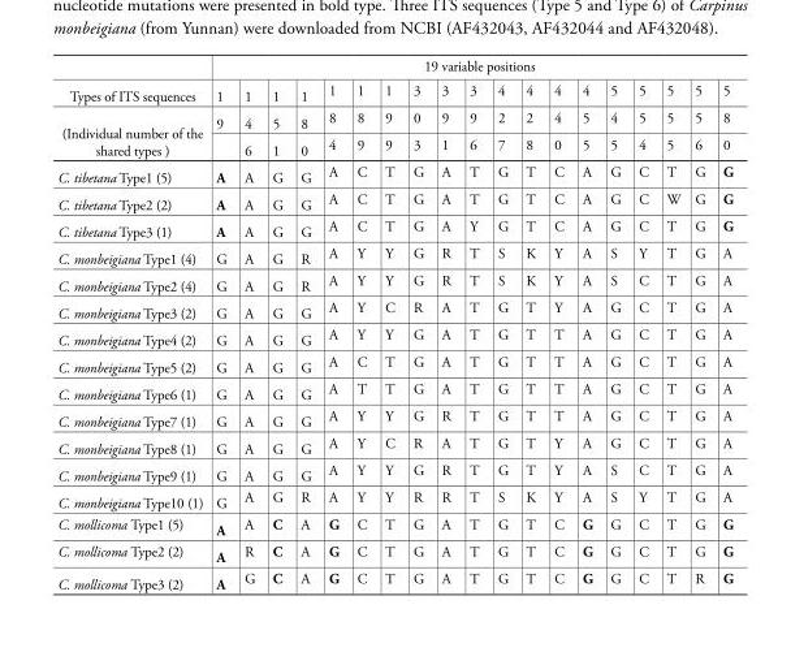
<table><thead><tr><td rowspan="2">Types of ITS sequences</td><td colspan="19">19 variable positions</td></tr><tr><td>1</td><td>1</td><td>1</td><td>1</td><td>1</td><td>1</td><td>1</td><td>3</td><td>3</td><td>3</td><td>4</td><td>4</td><td>4</td><td>4</td><td>5</td><td>5</td><td>5</td><td>5</td><td>5</td></tr></thead><tbody><tr><td rowspan="2">(Individual number of the shared types )</td><td>9</td><td>4</td><td>5</td><td>8</td><td>8</td><td>8</td><td>9</td><td>0</td><td>9</td><td>9</td><td>2</td><td>2</td><td>4</td><td>5</td><td>4</td><td>5</td><td>5</td><td>5</td><td>8</td></tr><tr><td></td><td>6</td><td>1</td><td>0</td><td>4</td><td>9</td><td>9</td><td>3</td><td>1</td><td>6</td><td>7</td><td>8</td><td>0</td><td>5</td><td>5</td><td>4</td><td>5</td><td>6</td><td>0</td></tr><tr><td>C. tibetana Type1 (5)</td><td>A</td><td>A</td><td>G</td><td>G</td><td>A</td><td>C</td><td>T</td><td>G</td><td>A</td><td>T</td><td>G</td><td>T</td><td>C</td><td>A</td><td>G</td><td>C</td><td>T</td><td>G</td><td>G</td></tr><tr><td>C. tibetana Type2 (2)</td><td>A</td><td>A</td><td>G</td><td>G</td><td>A</td><td>C</td><td>T</td><td>G</td><td>A</td><td>T</td><td>G</td><td>T</td><td>C</td><td>A</td><td>G</td><td>C</td><td>W</td><td>G</td><td>G</td></tr><tr><td>C. tibetana Type3 (1)</td><td>A</td><td>A</td><td>G</td><td>G</td><td>A</td><td>C</td><td>T</td><td>G</td><td>A</td><td>Y</td><td>G</td><td>T</td><td>C</td><td>A</td><td>G</td><td>C</td><td>T</td><td>G</td><td>G</td></tr><tr><td>C. monbeigiana Type1 (4)</td><td>G</td><td>A</td><td>G</td><td>R</td><td>A</td><td>Y</td><td>Y</td><td>G</td><td>R</td><td>T</td><td>S</td><td>K</td><td>Y</td><td>A</td><td>S</td><td>Y</td><td>T</td><td>G</td><td>A</td></tr><tr><td>C. monbeigiana Type2 (4)</td><td>G</td><td>A</td><td>G</td><td>R</td><td>A</td><td>Y</td><td>Y</td><td>G</td><td>R</td><td>T</td><td>S</td><td>K</td><td>Y</td><td>A</td><td>S</td><td>C</td><td>T</td><td>G</td><td>A</td></tr><tr><td>C. monbeigiana Type3 (2)</td><td>G</td><td>A</td><td>G</td><td>G</td><td>A</td><td>Y</td><td>C</td><td>R</td><td>A</td><td>T</td><td>G</td><td>T</td><td>Y</td><td>A</td><td>G</td><td>C</td><td>T</td><td>G</td><td>A</td></tr><tr><td>C. monbeigiana Type4 (2)</td><td>G</td><td>A</td><td>G</td><td>G</td><td>A</td><td>Y</td><td>Y</td><td>G</td><td>A</td><td>T</td><td>G</td><td>T</td><td>T</td><td>A</td><td>G</td><td>C</td><td>T</td><td>G</td><td>A</td></tr><tr><td>C. monbeigiana Type5 (2)</td><td>G</td><td>A</td><td>G</td><td>G</td><td>A</td><td>C</td><td>T</td><td>G</td><td>A</td><td>T</td><td>G</td><td>T</td><td>T</td><td>A</td><td>G</td><td>C</td><td>T</td><td>G</td><td>A</td></tr><tr><td>C. monbeigiana Type6 (1)</td><td>G</td><td>A</td><td>G</td><td>G</td><td>A</td><td>T</td><td>T</td><td>G</td><td>A</td><td>T</td><td>G</td><td>T</td><td>T</td><td>A</td><td>G</td><td>C</td><td>T</td><td>G</td><td>A</td></tr><tr><td>C. monbeigiana Type7 (1)</td><td>G</td><td>A</td><td>G</td><td>G</td><td>A</td><td>Y</td><td>Y</td><td>G</td><td>R</td><td>T</td><td>G</td><td>T</td><td>T</td><td>A</td><td>G</td><td>C</td><td>T</td><td>G</td><td>A</td></tr><tr><td>C. monbeigiana Type8 (1)</td><td>G</td><td>A</td><td>G</td><td>G</td><td>A</td><td>Y</td><td>C</td><td>R</td><td>A</td><td>T</td><td>G</td><td>T</td><td>Y</td><td>A</td><td>G</td><td>C</td><td>T</td><td>G</td><td>A</td></tr><tr><td>C. monbeigiana Type9 (1)</td><td>G</td><td>A</td><td>G</td><td>G</td><td>A</td><td>Y</td><td>Y</td><td>G</td><td>R</td><td>T</td><td>G</td><td>T</td><td>Y</td><td>A</td><td>S</td><td>C</td><td>T</td><td>G</td><td>A</td></tr><tr><td>C. monbeigiana Type10 (1)</td><td>G</td><td>A</td><td>G</td><td>R</td><td>A</td><td>Y</td><td>Y</td><td>R</td><td>R</td><td>T</td><td>S</td><td>K</td><td>Y</td><td>A</td><td>S</td><td>Y</td><td>T</td><td>G</td><td>A</td></tr><tr><td>C. mollicoma Type1 (5)</td><td>A</td><td>A</td><td>C</td><td>A</td><td>G</td><td>C</td><td>T</td><td>G</td><td>A</td><td>T</td><td>G</td><td>T</td><td>C</td><td>G</td><td>G</td><td>C</td><td>T</td><td>G</td><td>G</td></tr><tr><td>C. mollicoma Type2 (2)</td><td>A</td><td>R</td><td>C</td><td>A</td><td>G</td><td>C</td><td>T</td><td>G</td><td>A</td><td>T</td><td>G</td><td>T</td><td>C</td><td>G</td><td>G</td><td>C</td><td>T</td><td>G</td><td>G</td></tr><tr><td>C. mollicoma Type3 (2)</td><td>A</td><td>G</td><td>C</td><td>A</td><td>G</td><td>C</td><td>T</td><td>G</td><td>A</td><td>T</td><td>G</td><td>T</td><td>C</td><td>G</td><td>G</td><td>C</td><td>T</td><td>R</td><td>G</td></tr></tbody></table>